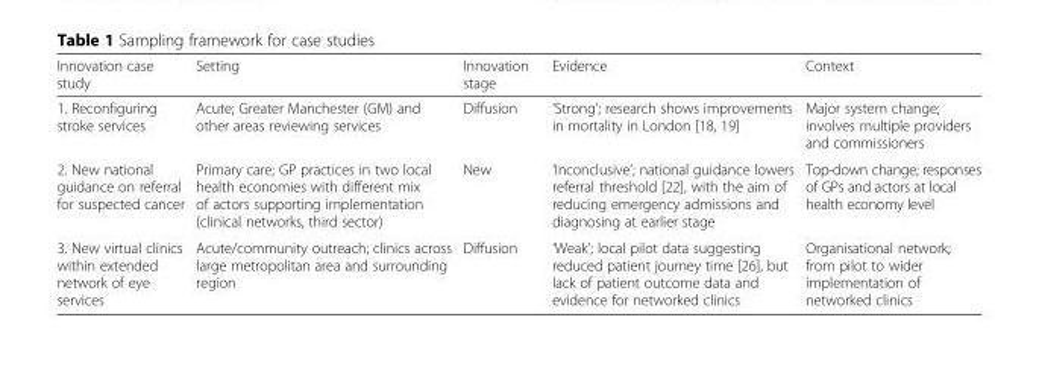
<table><thead><tr><td>Innovation case study</td><td>Setting</td><td>Innovation stage</td><td>Evidence</td><td>Context</td></tr></thead><tbody><tr><td>1. Reconfiguring stroke services</td><td>Acute; Greater Manchester (GM) and other areas reviewing services</td><td>Diffusion</td><td>‘Strong’; research shows improvements in mortality in London [18, 19]</td><td>Major system change; involves multiple providers and commissioners</td></tr><tr><td>2. New national guidance on referral for suspected cancer</td><td>Primary care; GP practices in two local health economies with different mix of actors supporting implementation (clinical networks, third sector)</td><td>New</td><td>‘Inconclusive’; national guidance lowers referral threshold [22], with the aim of reducing emergency admissions and diagnosing at earlier stage</td><td>Top-down change; responses of GPs and actors at local health economy level</td></tr><tr><td>3. New virtual clinics within extended network of eye services</td><td>Acute/community outreach; clinics across large metropolitan area and surrounding region</td><td>Diffusion</td><td>‘Weak’; local pilot data suggesting reduced patient journey time [26], but lack of patient outcome data and evidence for networked clinics</td><td>Organisational network; from pilot to wider implementation of networked clinics</td></tr></tbody></table>